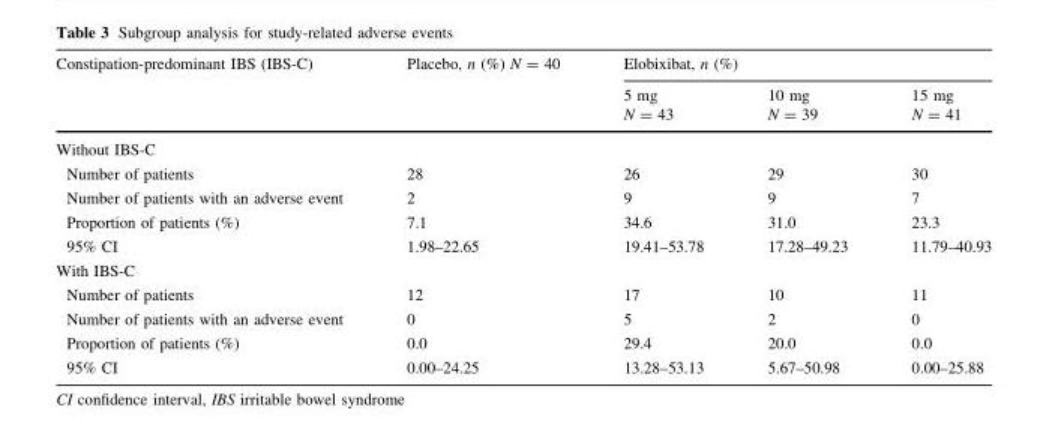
<table><thead><tr><td rowspan="2">Constipation-predominant IBS (IBS-C)</td><td rowspan="2">Placebo, n (%) N = 40</td><td colspan="3">Elobixibat, n (%)</td></tr><tr><td>5 mg N = 43</td><td>10 mg N = 39</td><td>15 mg N = 41</td></tr></thead><tbody><tr><td colspan="5">Without IBS-C</td></tr><tr><td>Number of patients</td><td>28</td><td>26</td><td>29</td><td>30</td></tr><tr><td>Number of patients with an adverse event</td><td>2</td><td>9</td><td>9</td><td>7</td></tr><tr><td>Proportion of patients (%)</td><td>7.1</td><td>34.6</td><td>31.0</td><td>23.3</td></tr><tr><td>95% CI</td><td>1.98–22.65</td><td>19.41–53.78</td><td>17.28–49.23</td><td>11.79–40.93</td></tr><tr><td colspan="5">With IBS-C</td></tr><tr><td>Number of patients</td><td>12</td><td>17</td><td>10</td><td>11</td></tr><tr><td>Number of patients with an adverse event</td><td>0</td><td>5</td><td>2</td><td>0</td></tr><tr><td>Proportion of patients (%)</td><td>0.0</td><td>29.4</td><td>20.0</td><td>0.0</td></tr><tr><td>95% CI</td><td>0.00–24.25</td><td>13.28–53.13</td><td>5.67–50.98</td><td>0.00–25.88</td></tr></tbody></table>